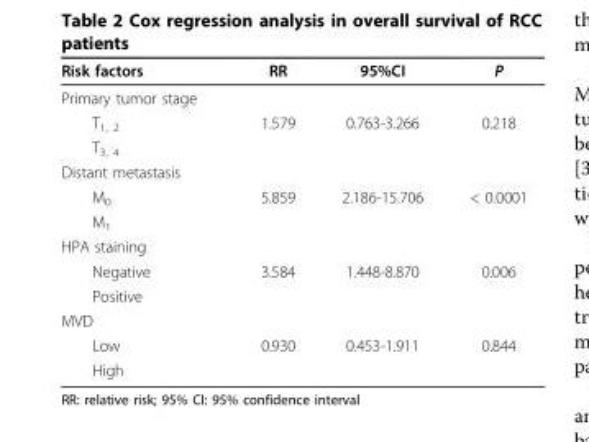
<table><thead><tr><td>Risk factors</td><td>RR</td><td>95%CI</td><td>P</td></tr></thead><tbody><tr><td colspan="4">Primary tumor stage</td></tr><tr><td>T<sub>1, 2</sub></td><td>1.579</td><td>0.763-3.266</td><td>0.218</td></tr><tr><td colspan="4">T<sub>3, 4</sub></td></tr><tr><td colspan="4">Distant metastasis</td></tr><tr><td>M<sub>0</sub></td><td>5.859</td><td>2.186-15.706</td><td>&lt; 0.0001</td></tr><tr><td colspan="4">M<sub>1</sub></td></tr><tr><td colspan="4">HPA staining</td></tr><tr><td>Negative</td><td>3.584</td><td>1.448-8.870</td><td>0.006</td></tr><tr><td colspan="4">Positive</td></tr><tr><td colspan="4">MVD</td></tr><tr><td>Low</td><td>0.930</td><td>0.453-1.911</td><td>0.844</td></tr><tr><td>High</td><td></td><td></td><td></td></tr></tbody></table>